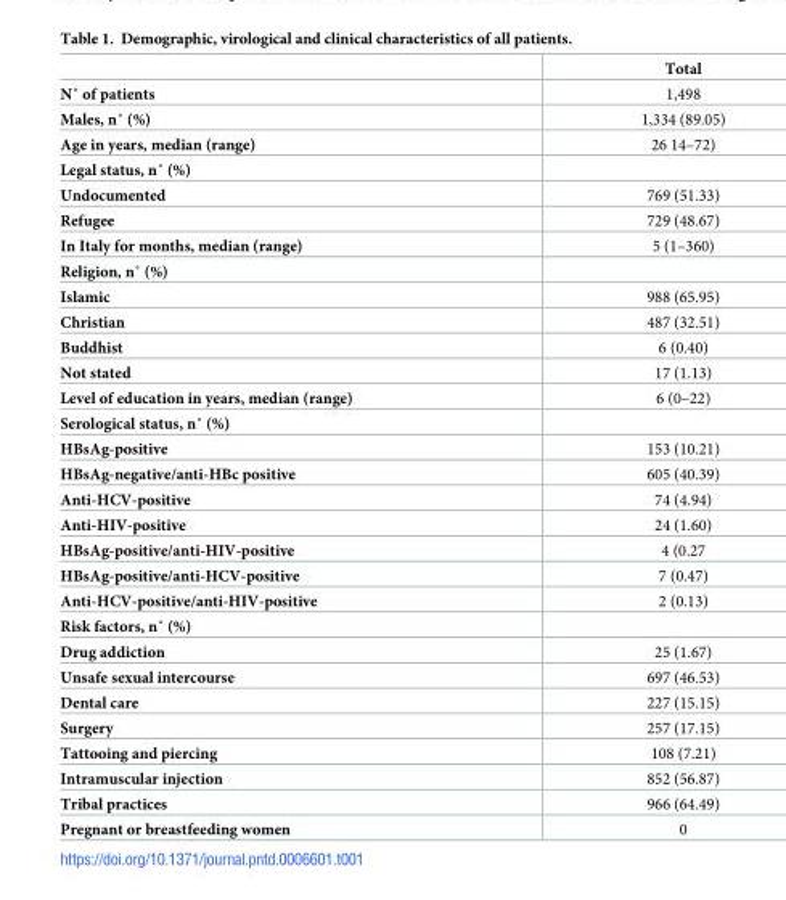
<table><thead><tr><td></td><td>Total</td></tr></thead><tbody><tr><td>N˚ of patients</td><td>1,498</td></tr><tr><td>Males, n˚ (%)</td><td>1,334 (89.05)</td></tr><tr><td>Age in years, median (range)</td><td>26 14–72)</td></tr><tr><td colspan="2">Legal status, n˚ (%)</td></tr><tr><td>Undocumented</td><td>769 (51.33)</td></tr><tr><td>Refugee</td><td>729 (48.67)</td></tr><tr><td>In Italy for months, median (range)</td><td>5 (1–360)</td></tr><tr><td colspan="2">Religion, n˚ (%)</td></tr><tr><td>Islamic</td><td>988 (65.95)</td></tr><tr><td>Christian</td><td>487 (32.51)</td></tr><tr><td>Buddhist</td><td>6 (0.40)</td></tr><tr><td>Not stated</td><td>17 (1.13)</td></tr><tr><td>Level of education in years, median (range)</td><td>6 (0–22)</td></tr><tr><td colspan="2">Serological status, n˚ (%)</td></tr><tr><td>HBsAg-positive</td><td>153 (10.21)</td></tr><tr><td>HBsAg-negative/anti-HBc positive</td><td>605 (40.39)</td></tr><tr><td>Anti-HCV-positive</td><td>74 (4.94)</td></tr><tr><td>Anti-HIV-positive</td><td>24 (1.60)</td></tr><tr><td>HBsAg-positive/anti-HIV-positive</td><td>4 (0.27</td></tr><tr><td>HBsAg-positive/anti-HCV-positive</td><td>7 (0.47)</td></tr><tr><td>Anti-HCV-positive/anti-HIV-positive</td><td>2 (0.13)</td></tr><tr><td colspan="2">Risk factors, n˚ (%)</td></tr><tr><td>Drug addiction</td><td>25 (1.67)</td></tr><tr><td>Unsafe sexual intercourse</td><td>697 (46.53)</td></tr><tr><td>Dental care</td><td>227 (15.15)</td></tr><tr><td>Surgery</td><td>257 (17.15)</td></tr><tr><td>Tattooing and piercing</td><td>108 (7.21)</td></tr><tr><td>Intramuscular injection</td><td>852 (56.87)</td></tr><tr><td>Tribal practices</td><td>966 (64.49)</td></tr><tr><td>Pregnant or breastfeeding women</td><td>0</td></tr></tbody></table>